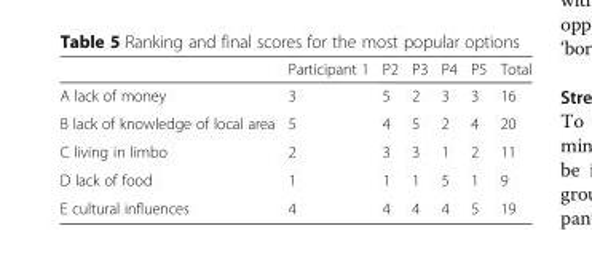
<table><thead><tr><td></td><td>Participant 1</td><td>P2</td><td>P3</td><td>P4</td><td>P5</td><td>Total</td></tr></thead><tbody><tr><td>A lack of money</td><td>3</td><td>5</td><td>2</td><td>3</td><td>3</td><td>16</td></tr><tr><td>B lack of knowledge of local area</td><td>5</td><td>4</td><td>5</td><td>2</td><td>4</td><td>20</td></tr><tr><td>C living in limbo</td><td>2</td><td>3</td><td>3</td><td>1</td><td>2</td><td>11</td></tr><tr><td>D lack of food</td><td>1</td><td>1</td><td>1</td><td>5</td><td>1</td><td>9</td></tr><tr><td>E cultural influences</td><td>4</td><td>4</td><td>4</td><td>4</td><td>5</td><td>19</td></tr></tbody></table>